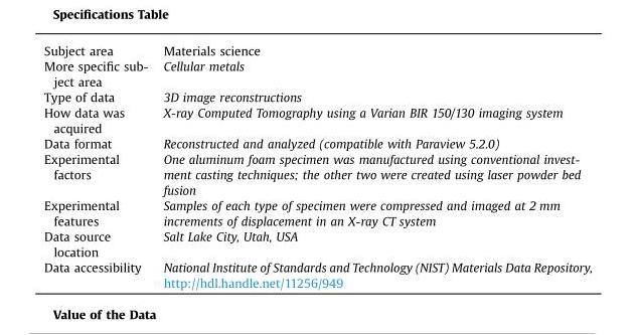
<table><tbody><tr><td>Subject area</td><td>Materials science</td></tr><tr><td>More specific sub- ject area</td><td>Cellular metals</td></tr><tr><td>Type of data</td><td>3D image reconstructions</td></tr><tr><td>How data was acquired</td><td>X-ray Computed Tomography using a Varian BIR 150/130 imaging system</td></tr><tr><td>Data format</td><td>Reconstructed and analyzed (compatible with Paraview 5.2.0)</td></tr><tr><td>Experimental factors</td><td>One aluminum foam specimen was manufactured using conventional invest- ment casting techniques; the other two were created using laser powder bed fusion</td></tr><tr><td>Experimental features</td><td>Samples of each type of specimen were compressed and imaged at 2 mm increments of displacement in an X-ray CT system</td></tr><tr><td>Data source location</td><td>Salt Lake City, Utah, USA</td></tr><tr><td>Data accessibility</td><td>National Institute of Standards and Technology (NIST) Materials Data Repository, http://hdl.handle.net/11256/949</td></tr></tbody></table>